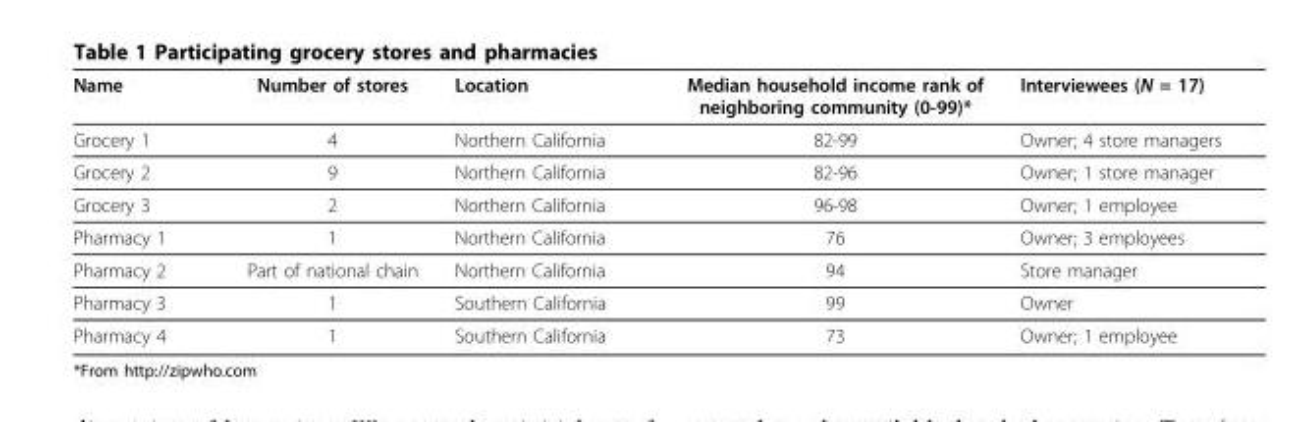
<table><thead><tr><td>Name</td><td>Number of stores</td><td>Location</td><td>Median household income rank of neighboring community (0-99)*</td><td>Interviewees (N = 17)</td></tr></thead><tbody><tr><td>Grocery 1</td><td>4</td><td>Northern California</td><td>82-99</td><td>Owner; 4 store managers</td></tr><tr><td>Grocery 2</td><td>9</td><td>Northern California</td><td>82-96</td><td>Owner; 1 store manager</td></tr><tr><td>Grocery 3</td><td>2</td><td>Northern California</td><td>96-98</td><td>Owner; 1 employee</td></tr><tr><td>Pharmacy 1</td><td>1</td><td>Northern California</td><td>76</td><td>Owner; 3 employees</td></tr><tr><td>Pharmacy 2</td><td>Part of national chain</td><td>Northern California</td><td>94</td><td>Store manager</td></tr><tr><td>Pharmacy 3</td><td>1</td><td>Southern California</td><td>99</td><td>Owner</td></tr><tr><td>Pharmacy 4</td><td>1</td><td>Southern California</td><td>73</td><td>Owner; 1 employee</td></tr></tbody></table>